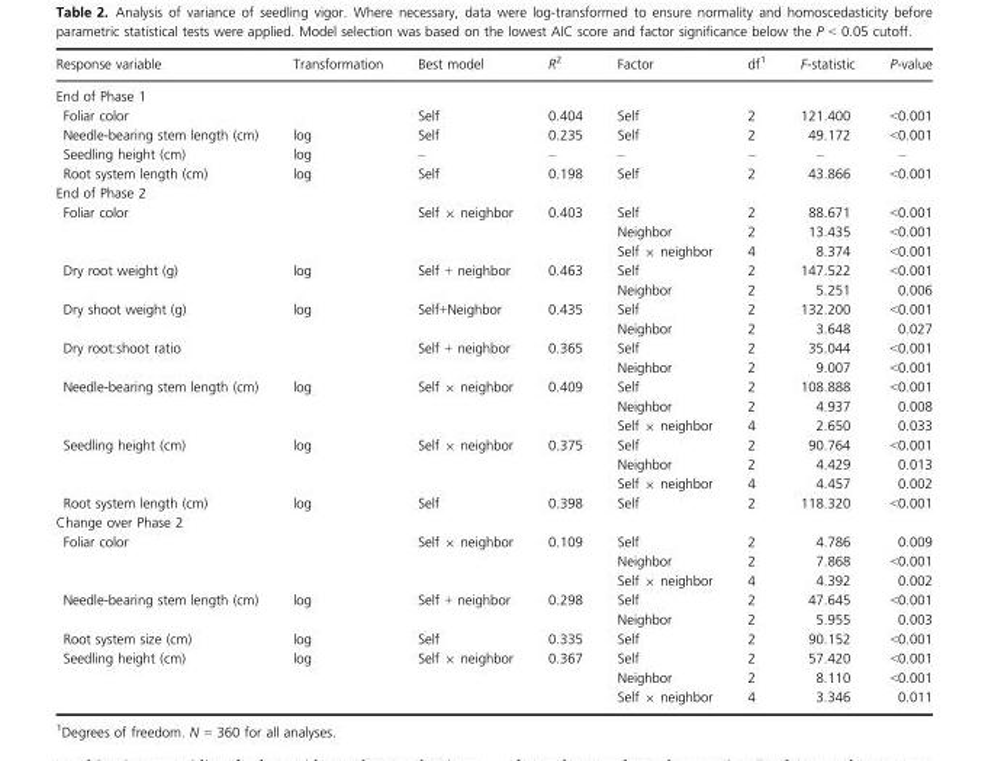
<table><thead><tr><td>Response variable</td><td>Transformation</td><td>Best model</td><td>R<sup>2</sup></td><td>Factor</td><td>df1</td><td>F-statistic</td><td>P-value</td></tr></thead><tbody><tr><td colspan="8">End of Phase 1</td></tr><tr><td>Foliar color</td><td></td><td>Self</td><td>0.404</td><td>Self</td><td>2</td><td>121.400</td><td>&lt;0.001</td></tr><tr><td>Needle-bearing stem length (cm)</td><td>log</td><td>Self</td><td>0.235</td><td>Self</td><td>2</td><td>49.172</td><td>&lt;0.001</td></tr><tr><td>Seedling height (cm)</td><td>log</td><td>–</td><td>–</td><td>–</td><td>–</td><td>–</td><td>–</td></tr><tr><td>Root system length (cm)</td><td>log</td><td>Self</td><td>0.198</td><td>Self</td><td>2</td><td>43.866</td><td>&lt;0.001</td></tr><tr><td colspan="8">End of Phase 2</td></tr><tr><td rowspan="3">Foliar color</td><td></td><td>Self × neighbor</td><td>0.403</td><td>Self</td><td>2</td><td>88.671</td><td>&lt;0.001</td></tr><tr><td></td><td></td><td></td><td>Neighbor</td><td>2</td><td>13.435</td><td>&lt;0.001</td></tr><tr><td></td><td></td><td></td><td>Self × neighbor</td><td>4</td><td>8.374</td><td>&lt;0.001</td></tr><tr><td rowspan="2">Dry root weight (g)</td><td>log</td><td>Self + neighbor</td><td>0.463</td><td>Self</td><td>2</td><td>147.522</td><td>&lt;0.001</td></tr><tr><td></td><td></td><td></td><td>Neighbor</td><td>2</td><td>5.251</td><td>0.006</td></tr><tr><td rowspan="2">Dry shoot weight (g)</td><td>log</td><td>Self+Neighbor</td><td>0.435</td><td>Self</td><td>2</td><td>132.200</td><td>&lt;0.001</td></tr><tr><td></td><td></td><td></td><td>Neighbor</td><td>2</td><td>3.648</td><td>0.027</td></tr><tr><td rowspan="2">Dry root:shoot ratio</td><td></td><td>Self + neighbor</td><td>0.365</td><td>Self</td><td>2</td><td>35.044</td><td>&lt;0.001</td></tr><tr><td></td><td></td><td></td><td>Neighbor</td><td>2</td><td>9.007</td><td>&lt;0.001</td></tr><tr><td rowspan="3">Needle-bearing stem length (cm)</td><td>log</td><td>Self × neighbor</td><td>0.409</td><td>Self</td><td>2</td><td>108.888</td><td>&lt;0.001</td></tr><tr><td></td><td></td><td></td><td>Neighbor</td><td>2</td><td>4.937</td><td>0.008</td></tr><tr><td></td><td></td><td></td><td>Self × neighbor</td><td>4</td><td>2.650</td><td>0.033</td></tr><tr><td rowspan="3">Seedling height (cm)</td><td>log</td><td>Self × neighbor</td><td>0.375</td><td>Self</td><td>2</td><td>90.764</td><td>&lt;0.001</td></tr><tr><td></td><td></td><td></td><td>Neighbor</td><td>2</td><td>4.429</td><td>0.013</td></tr><tr><td></td><td></td><td></td><td>Self × neighbor</td><td>4</td><td>4.457</td><td>0.002</td></tr><tr><td>Root system length (cm)</td><td>log</td><td>Self</td><td>0.398</td><td>Self</td><td>2</td><td>118.320</td><td>&lt;0.001</td></tr><tr><td colspan="8">Change over Phase 2</td></tr><tr><td rowspan="3">Foliar color</td><td></td><td>Self × neighbor</td><td>0.109</td><td>Self</td><td>2</td><td>4.786</td><td>0.009</td></tr><tr><td></td><td></td><td></td><td>Neighbor</td><td>2</td><td>7.868</td><td>&lt;0.001</td></tr><tr><td></td><td></td><td></td><td>Self × neighbor</td><td>4</td><td>4.392</td><td>0.002</td></tr><tr><td rowspan="2">Needle-bearing stem length (cm)</td><td>log</td><td>Self + neighbor</td><td>0.298</td><td>Self</td><td>2</td><td>47.645</td><td>&lt;0.001</td></tr><tr><td></td><td></td><td></td><td>Neighbor</td><td>2</td><td>5.955</td><td>0.003</td></tr><tr><td>Root system size (cm)</td><td>log</td><td>Self</td><td>0.335</td><td>Self</td><td>2</td><td>90.152</td><td>&lt;0.001</td></tr><tr><td rowspan="3">Seedling height (cm)</td><td>log</td><td>Self × neighbor</td><td>0.367</td><td>Self</td><td>2</td><td>57.420</td><td>&lt;0.001</td></tr><tr><td></td><td></td><td></td><td>Neighbor</td><td>2</td><td>8.110</td><td>&lt;0.001</td></tr><tr><td></td><td></td><td></td><td>Self × neighbor</td><td>4</td><td>3.346</td><td>0.011</td></tr></tbody></table>